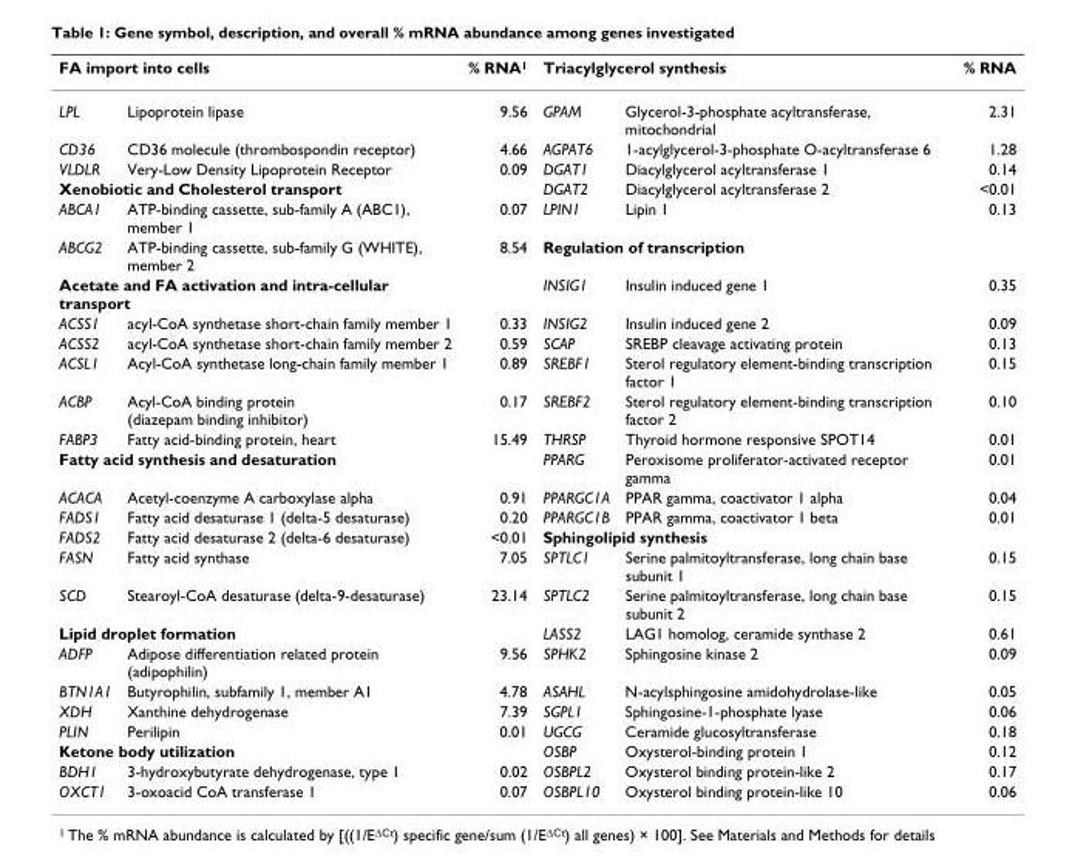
<table><thead><tr><td colspan="2">FA import into cells</td><td rowspan="2">% RNA<sup>1</sup> 9.56</td><td colspan="2">Triacylglycerol synthesis</td><td rowspan="2">% RNA 2.31</td></tr><tr><td>LPL</td><td>Lipoprotein lipase</td><td>GPAM</td><td>Glycerol-3-phosphate acyltransferase, mitochondrial</td></tr></thead><tbody><tr><td>CD36</td><td>CD36 molecule (thrombospondin receptor)</td><td>4.66</td><td>AGPAT6</td><td>1-acylglycerol-3-phosphate O-acyltransferase 6</td><td>1.28</td></tr><tr><td>VLDLR</td><td>Very-Low Density Lipoprotein Receptor</td><td>0.09</td><td>DGAT1</td><td>Diacylglycerol acyltransferase 1</td><td>0.14</td></tr><tr><td colspan="2">Xenobiotic and Cholesterol transport</td><td></td><td>DGAT2</td><td>Diacylglycerol acyltransferase 2</td><td>&lt;0.01</td></tr><tr><td>ABCA1</td><td>ATP-binding cassette, sub-family A (ABC1), member 1</td><td>0.07</td><td>LPIN1</td><td>Lipin 1</td><td>0.13</td></tr><tr><td>ABCG2</td><td>ATP-binding cassette, sub-family G (WHITE), member 2</td><td>8.54</td><td colspan="2">Regulation of transcription</td><td></td></tr><tr><td colspan="2">Acetate and FA activation and intra-cellular transport</td><td></td><td>INSIG1</td><td>Insulin induced gene 1</td><td>0.35</td></tr><tr><td>ACSS1</td><td>acyl-CoA synthetase short-chain family member 1</td><td>0.33</td><td>INSIG2</td><td>Insulin induced gene 2</td><td>0.09</td></tr><tr><td>ACSS2</td><td>acyl-CoA synthetase short-chain family member 2</td><td>0.59</td><td>SCAP</td><td>SREBP cleavage activating protein</td><td>0.13</td></tr><tr><td>ACSL1</td><td>Acyl-CoA synthetase long-chain family member 1</td><td>0.89</td><td>SREBF1</td><td>Sterol regulatory element-binding transcription factor 1</td><td>0.15</td></tr><tr><td>ACBP</td><td>Acyl-CoA binding protein (diazepam binding inhibitor)</td><td>0.17</td><td>SREBF2</td><td>Sterol regulatory element-binding transcription factor 2</td><td>0.10</td></tr><tr><td>FABP3</td><td>Fatty acid-binding protein, heart</td><td>15.49</td><td>THRSP</td><td>Thyroid hormone responsive SPOT14</td><td>0.01</td></tr><tr><td colspan="2">Fatty acid synthesis and desaturation</td><td></td><td>PPARG</td><td>Peroxisome proliferator-activated receptor gamma</td><td>0.01</td></tr><tr><td>ACACA</td><td>Acetyl-coenzyme A carboxylase alpha</td><td>0.91</td><td>PPARGC1A</td><td>PPAR gamma, coactivator 1 alpha</td><td>0.04</td></tr><tr><td>FADS1</td><td>Fatty acid desaturase 1 (delta-5 desaturase)</td><td>0.20</td><td>PPARGC1B</td><td>PPAR gamma, coactivator 1 beta</td><td>0.01</td></tr><tr><td>FADS2</td><td>Fatty acid desaturase 2 (delta-6 desaturase)</td><td>&lt;0.01</td><td colspan="2">Sphingolipid synthesis</td><td></td></tr><tr><td>FASN</td><td>Fatty acid synthase</td><td>7.05</td><td>SPTLC1</td><td>Serine palmitoyltransferase, long chain base subunit 1</td><td>0.15</td></tr><tr><td>SCD</td><td>Stearoyl-CoA desaturase (delta-9-desaturase)</td><td>23.14</td><td>SPTLC2</td><td>Serine palmitoyltransferase, long chain base subunit 2</td><td>0.15</td></tr><tr><td colspan="2">Lipid droplet formation</td><td></td><td>LASS2</td><td>LAG1 homolog, ceramide synthase 2</td><td>0.61</td></tr><tr><td>ADFP</td><td>Adipose differentiation related protein (adipophilin)</td><td>9.56</td><td>SPHK2</td><td>Sphingosine kinase 2</td><td>0.09</td></tr><tr><td>BTN1A1</td><td>Butyrophilin, subfamily 1, member A1</td><td>4.78</td><td>ASAHL</td><td>N-acylsphingosine amidohydrolase-like</td><td>0.05</td></tr><tr><td>XDH</td><td>Xanthine dehydrogenase</td><td>7.39</td><td>SGPL1</td><td>Sphingosine-1-phosphate lyase</td><td>0.06</td></tr><tr><td>PLIN</td><td>Perilipin</td><td>0.01</td><td>UGCG</td><td>Ceramide glucosyltransferase</td><td>0.18</td></tr><tr><td colspan="2">Ketone body utilization</td><td></td><td>OSBP</td><td>Oxysterol-binding protein 1</td><td>0.12</td></tr><tr><td>BDH1</td><td>3-hydroxybutyrate dehydrogenase, type 1</td><td>0.02</td><td>OSBPL2</td><td>Oxysterol binding protein-like 2</td><td>0.17</td></tr><tr><td>OXCT1</td><td>3-oxoacid CoA transferase 1</td><td>0.07</td><td>OSBPL10</td><td>Oxysterol binding protein-like 10</td><td>0.06</td></tr></tbody></table>